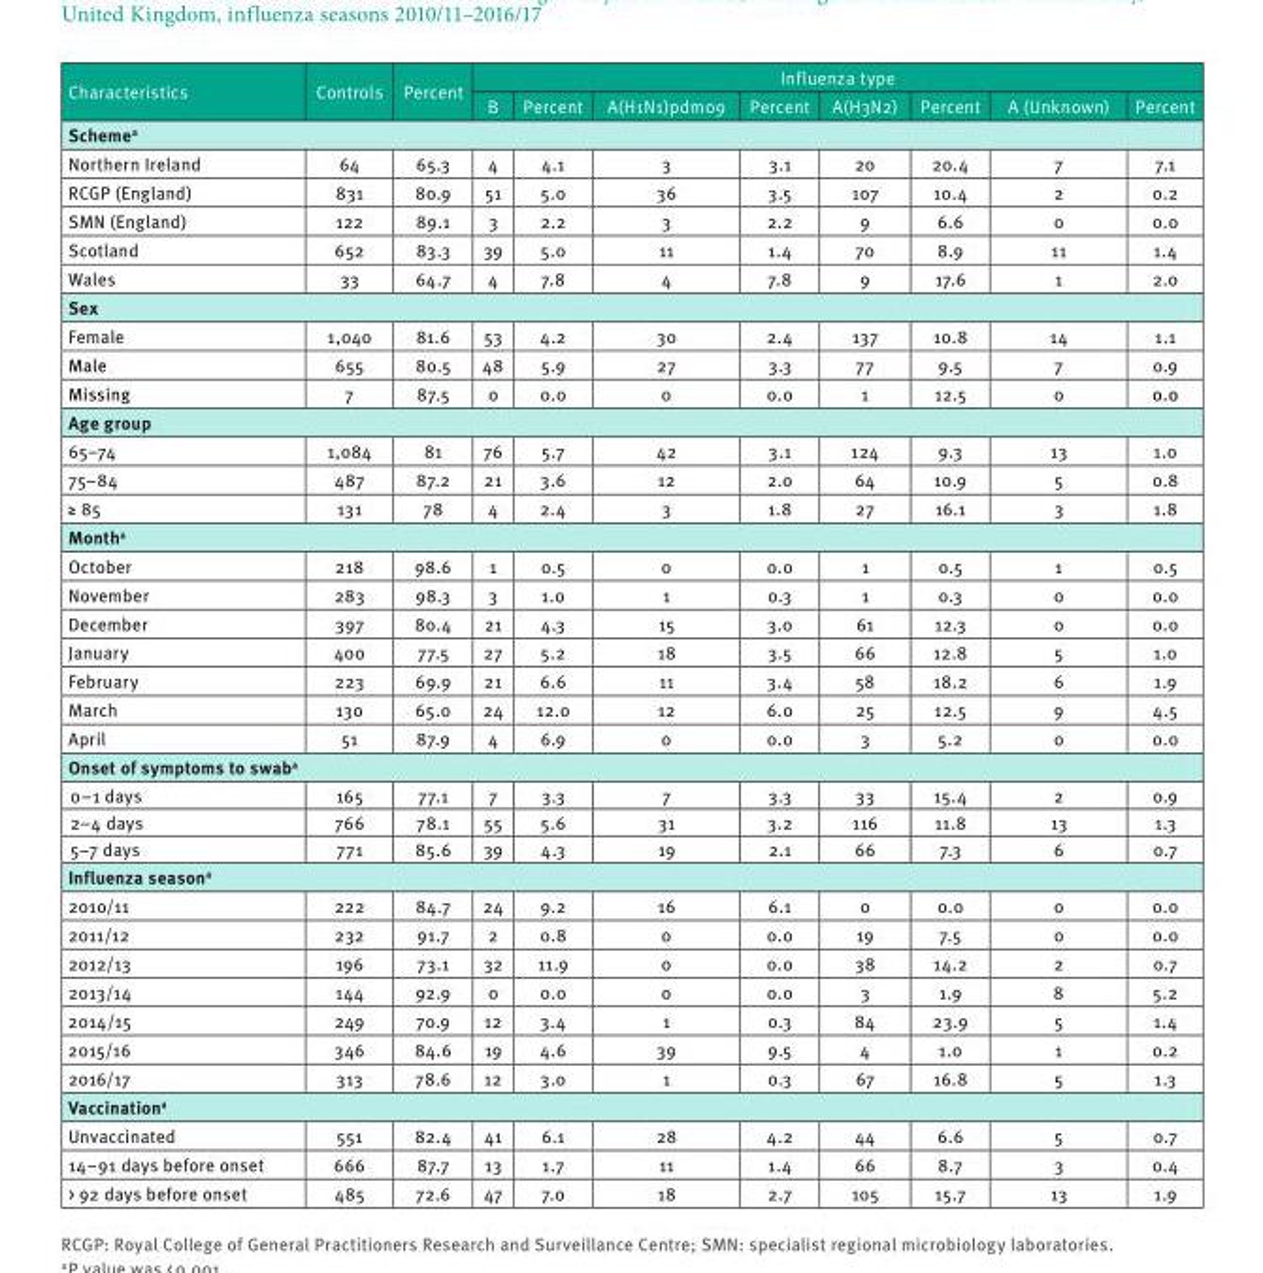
<table><thead><tr><td rowspan="2">Characteristics</td><td rowspan="2">Controls</td><td rowspan="2">Percent</td><td colspan="8">Influenza type</td></tr><tr><td>B</td><td>Percent</td><td>A(H1N1)pdm09</td><td>Percent</td><td>A(H3N2)</td><td>Percent</td><td>A (Unknown)</td><td>Percent</td></tr></thead><tbody><tr><td colspan="11">Scheme<sup>a</sup></td></tr><tr><td>Northern Ireland</td><td>64</td><td>65.3</td><td>4</td><td>4.1</td><td>3</td><td>3.1</td><td>20</td><td>20.4</td><td>7</td><td>7.1</td></tr><tr><td>RCGP (England)</td><td>831</td><td>80.9</td><td>51</td><td>5.0</td><td>36</td><td>3.5</td><td>107</td><td>10.4</td><td>2</td><td>0.2</td></tr><tr><td>SMN (England)</td><td>122</td><td>89.1</td><td>3</td><td>2.2</td><td>3</td><td>2.2</td><td>9</td><td>6.6</td><td>0</td><td>0.0</td></tr><tr><td>Scotland</td><td>652</td><td>83.3</td><td>39</td><td>5.0</td><td>11</td><td>1.4</td><td>70</td><td>8.9</td><td>11</td><td>1.4</td></tr><tr><td>Wales</td><td>33</td><td>64.7</td><td>4</td><td>7.8</td><td>4</td><td>7.8</td><td>9</td><td>17.6</td><td>1</td><td>2.0</td></tr><tr><td colspan="11">Sex</td></tr><tr><td>Female</td><td>1,040</td><td>81.6</td><td>53</td><td>4.2</td><td>30</td><td>2.4</td><td>137</td><td>10.8</td><td>14</td><td>1.1</td></tr><tr><td>Male</td><td>655</td><td>80.5</td><td>48</td><td>5.9</td><td>27</td><td>3.3</td><td>77</td><td>9.5</td><td>7</td><td>0.9</td></tr><tr><td>Missing</td><td>7</td><td>87.5</td><td>0</td><td>0.0</td><td>0</td><td>0.0</td><td>1</td><td>12.5</td><td>0</td><td>0.0</td></tr><tr><td colspan="11">Age group</td></tr><tr><td>65–74</td><td>1,084</td><td>81</td><td>76</td><td>5.7</td><td>42</td><td>3.1</td><td>124</td><td>9.3</td><td>13</td><td>1.0</td></tr><tr><td>75–84</td><td>487</td><td>87.2</td><td>21</td><td>3.6</td><td>12</td><td>2.0</td><td>64</td><td>10.9</td><td>5</td><td>0.8</td></tr><tr><td>≥ 85</td><td>131</td><td>78</td><td>4</td><td>2.4</td><td>3</td><td>1.8</td><td>27</td><td>16.1</td><td>3</td><td>1.8</td></tr><tr><td colspan="11">Month<sup>a</sup></td></tr><tr><td>October</td><td>218</td><td>98.6</td><td>1</td><td>0.5</td><td>0</td><td>0.0</td><td>1</td><td>0.5</td><td>1</td><td>0.5</td></tr><tr><td>November</td><td>283</td><td>98.3</td><td>3</td><td>1.0</td><td>1</td><td>0.3</td><td>1</td><td>0.3</td><td>0</td><td>0.0</td></tr><tr><td>December</td><td>397</td><td>80.4</td><td>21</td><td>4.3</td><td>15</td><td>3.0</td><td>61</td><td>12.3</td><td>0</td><td>0.0</td></tr><tr><td>January</td><td>400</td><td>77.5</td><td>27</td><td>5.2</td><td>18</td><td>3.5</td><td>66</td><td>12.8</td><td>5</td><td>1.0</td></tr><tr><td>February</td><td>223</td><td>69.9</td><td>21</td><td>6.6</td><td>11</td><td>3.4</td><td>58</td><td>18.2</td><td>6</td><td>1.9</td></tr><tr><td>March</td><td>130</td><td>65.0</td><td>24</td><td>12.0</td><td>12</td><td>6.0</td><td>25</td><td>12.5</td><td>9</td><td>4.5</td></tr><tr><td>April</td><td>51</td><td>87.9</td><td>4</td><td>6.9</td><td>0</td><td>0.0</td><td>3</td><td>5.2</td><td>0</td><td>0.0</td></tr><tr><td colspan="11">Onset of symptoms to swab<sup>a</sup></td></tr><tr><td>0–1 days</td><td>165</td><td>77.1</td><td>7</td><td>3.3</td><td>7</td><td>3.3</td><td>33</td><td>15.4</td><td>2</td><td>0.9</td></tr><tr><td>2–4 days</td><td>766</td><td>78.1</td><td>55</td><td>5.6</td><td>31</td><td>3.2</td><td>116</td><td>11.8</td><td>13</td><td>1.3</td></tr><tr><td>5–7 days</td><td>771</td><td>85.6</td><td>39</td><td>4.3</td><td>19</td><td>2.1</td><td>66</td><td>7.3</td><td>6</td><td>0.7</td></tr><tr><td colspan="11">Influenza season<sup>a</sup></td></tr><tr><td>2010/11</td><td>222</td><td>84.7</td><td>24</td><td>9.2</td><td>16</td><td>6.1</td><td>0</td><td>0.0</td><td>0</td><td>0.0</td></tr><tr><td>2011/12</td><td>232</td><td>91.7</td><td>2</td><td>0.8</td><td>0</td><td>0.0</td><td>19</td><td>7.5</td><td>0</td><td>0.0</td></tr><tr><td>2012/13</td><td>196</td><td>73.1</td><td>32</td><td>11.9</td><td>0</td><td>0.0</td><td>38</td><td>14.2</td><td>2</td><td>0.7</td></tr><tr><td>2013/14</td><td>144</td><td>92.9</td><td>0</td><td>0.0</td><td>0</td><td>0.0</td><td>3</td><td>1.9</td><td>8</td><td>5.2</td></tr><tr><td>2014/15</td><td>249</td><td>70.9</td><td>12</td><td>3.4</td><td>1</td><td>0.3</td><td>84</td><td>23.9</td><td>5</td><td>1.4</td></tr><tr><td>2015/16</td><td>346</td><td>84.6</td><td>19</td><td>4.6</td><td>39</td><td>9.5</td><td>4</td><td>1.0</td><td>1</td><td>0.2</td></tr><tr><td>2016/17</td><td>313</td><td>78.6</td><td>12</td><td>3.0</td><td>1</td><td>0.3</td><td>67</td><td>16.8</td><td>5</td><td>1.3</td></tr><tr><td colspan="11">Vaccination<sup>a</sup></td></tr><tr><td>Unvaccinated</td><td>551</td><td>82.4</td><td>41</td><td>6.1</td><td>28</td><td>4.2</td><td>44</td><td>6.6</td><td>5</td><td>0.7</td></tr><tr><td>14–91 days before onset</td><td>666</td><td>87.7</td><td>13</td><td>1.7</td><td>11</td><td>1.4</td><td>66</td><td>8.7</td><td>3</td><td>0.4</td></tr><tr><td>&gt; 92 days before onset</td><td>485</td><td>72.6</td><td>47</td><td>7.0</td><td>18</td><td>2.7</td><td>105</td><td>15.7</td><td>13</td><td>1.9</td></tr></tbody></table>